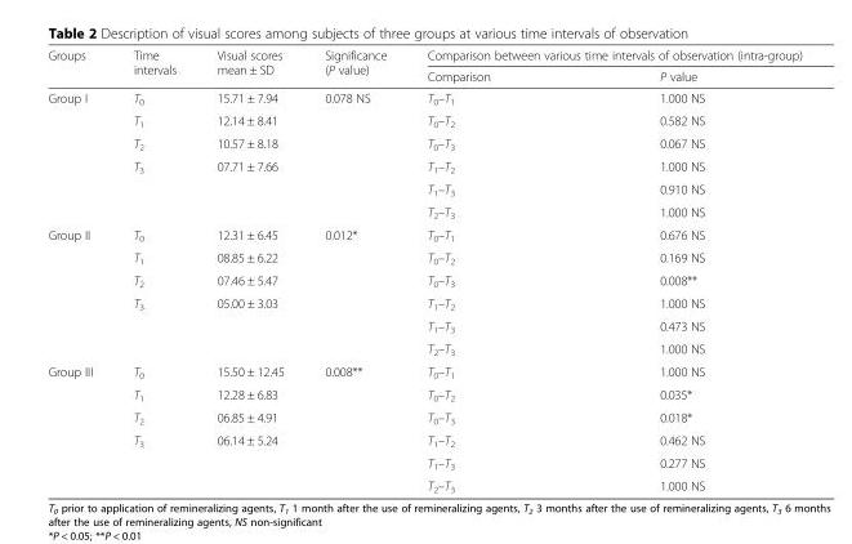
<table><thead><tr><td rowspan="2">Groups</td><td rowspan="2">Time intervals</td><td rowspan="2">Visual scores mean ± SD</td><td rowspan="2">Significance (P value)</td><td colspan="2">Comparison between various time intervals of observation (intra-group)</td></tr><tr><td>Comparison</td><td>P value</td></tr></thead><tbody><tr><td rowspan="6">Group I</td><td>T<sub>0</sub></td><td>15.71 ± 7.94</td><td rowspan="6">0.078 NS</td><td>T<sub>0</sub>–T<sub>1</sub></td><td>1.000 NS</td></tr><tr><td>T<sub>1</sub></td><td>12.14 ± 8.41</td><td>T<sub>0</sub>–T<sub>2</sub></td><td>0.582 NS</td></tr><tr><td>T<sub>2</sub></td><td>10.57 ± 8.18</td><td>T<sub>0</sub>–T<sub>3</sub></td><td>0.067 NS</td></tr><tr><td>T<sub>3</sub></td><td>07.71 ± 7.66</td><td>T<sub>1</sub>–T<sub>2</sub></td><td>1.000 NS</td></tr><tr><td rowspan="2"></td><td rowspan="2"></td><td>T<sub>1</sub>–T<sub>3</sub></td><td>0.910 NS</td></tr><tr><td>T<sub>2</sub>–T<sub>3</sub></td><td>1.000 NS</td></tr><tr><td rowspan="6">Group II</td><td>T<sub>0</sub></td><td>12.31 ± 6.45</td><td rowspan="6">0.012*</td><td>T<sub>0</sub>–T<sub>1</sub></td><td>0.676 NS</td></tr><tr><td>T<sub>1</sub></td><td>08.85 ± 6.22</td><td>T<sub>0</sub>–T<sub>2</sub></td><td>0.169 NS</td></tr><tr><td>T<sub>2</sub></td><td>07.46 ± 5.47</td><td>T<sub>0</sub>–T<sub>3</sub></td><td>0.008**</td></tr><tr><td>T<sub>3</sub></td><td>05.00 ± 3.03</td><td>T<sub>1</sub>–T<sub>2</sub></td><td>1.000 NS</td></tr><tr><td rowspan="2"></td><td rowspan="2"></td><td>T<sub>1</sub>–T<sub>3</sub></td><td>0.473 NS</td></tr><tr><td>T<sub>2</sub>–T<sub>3</sub></td><td>1.000 NS</td></tr><tr><td rowspan="6">Group III</td><td>T<sub>0</sub></td><td>15.50 ± 12.45</td><td rowspan="6">0.008**</td><td>T<sub>0</sub>–T<sub>1</sub></td><td>1.000 NS</td></tr><tr><td>T<sub>1</sub></td><td>12.28 ± 6.83</td><td>T<sub>0</sub>–T<sub>2</sub></td><td>0.035*</td></tr><tr><td>T<sub>2</sub></td><td>06.85 ± 4.91</td><td>T<sub>0</sub>–T<sub>3</sub></td><td>0.018*</td></tr><tr><td>T<sub>3</sub></td><td>06.14 ± 5.24</td><td>T<sub>1</sub>–T<sub>2</sub></td><td>0.462 NS</td></tr><tr><td rowspan="2"></td><td rowspan="2"></td><td>T<sub>1</sub>–T<sub>3</sub></td><td>0.277 NS</td></tr><tr><td>T<sub>2</sub>–T<sub>3</sub></td><td>1.000 NS</td></tr></tbody></table>